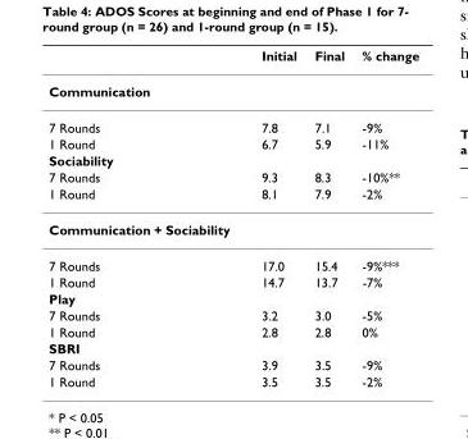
<table><thead><tr><td></td><td>Initial</td><td>Final</td><td>% change</td></tr></thead><tbody><tr><td colspan="4">Communication</td></tr><tr><td>7 Rounds</td><td>7.8</td><td>7.1</td><td>-9%</td></tr><tr><td>1 Round</td><td>6.7</td><td>5.9</td><td>-11%</td></tr><tr><td colspan="4">Sociability</td></tr><tr><td>7 Rounds</td><td>9.3</td><td>8.3</td><td>-10%**</td></tr><tr><td>1 Round</td><td>8.1</td><td>7.9</td><td>-2%</td></tr><tr><td colspan="4">Communication + Sociability</td></tr><tr><td>7 Rounds</td><td>17.0</td><td>15.4</td><td>-9%***</td></tr><tr><td>1 Round</td><td>14.7</td><td>13.7</td><td>-7%</td></tr><tr><td colspan="4">Play</td></tr><tr><td>7 Rounds</td><td>3.2</td><td>3.0</td><td>-5%</td></tr><tr><td>1 Round</td><td>2.8</td><td>2.8</td><td>0%</td></tr><tr><td colspan="4">SBRI</td></tr><tr><td>7 Rounds</td><td>3.9</td><td>3.5</td><td>-9%</td></tr><tr><td>1 Round</td><td>3.5</td><td>3.5</td><td>-2%</td></tr></tbody></table>